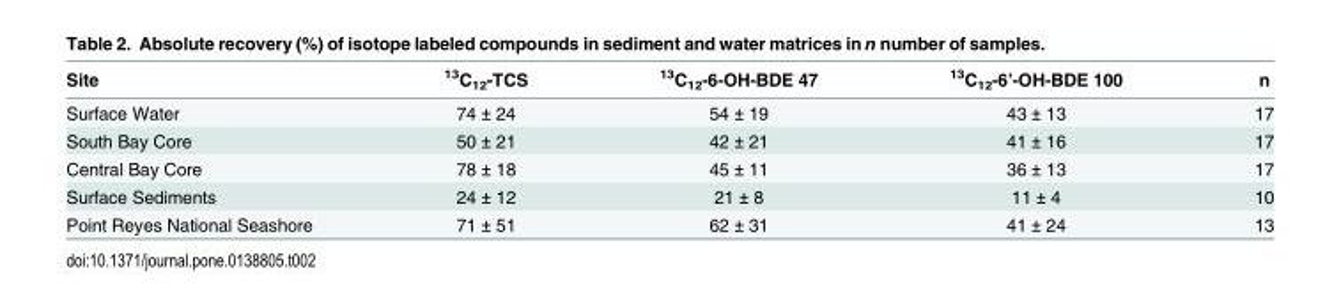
<table><thead><tr><td>Site</td><td><sup>13</sup>C<sub>12</sub>-TCS</td><td><sup>13</sup>C<sub>12</sub>-6-OH-BDE 47</td><td><sup>13</sup>C<sub>12</sub>-6’-OH-BDE 100</td><td>n</td></tr></thead><tbody><tr><td>Surface Water</td><td>74 ± 24</td><td>54 ± 19</td><td>43 ± 13</td><td>17</td></tr><tr><td>South Bay Core</td><td>50 ± 21</td><td>42 ± 21</td><td>41 ± 16</td><td>17</td></tr><tr><td>Central Bay Core</td><td>78 ± 18</td><td>45 ± 11</td><td>36 ± 13</td><td>17</td></tr><tr><td>Surface Sediments</td><td>24 ± 12</td><td>21 ± 8</td><td>11 ± 4</td><td>10</td></tr><tr><td>Point Reyes National Seashore</td><td>71 ± 51</td><td>62 ± 31</td><td>41 ± 24</td><td>13</td></tr></tbody></table>